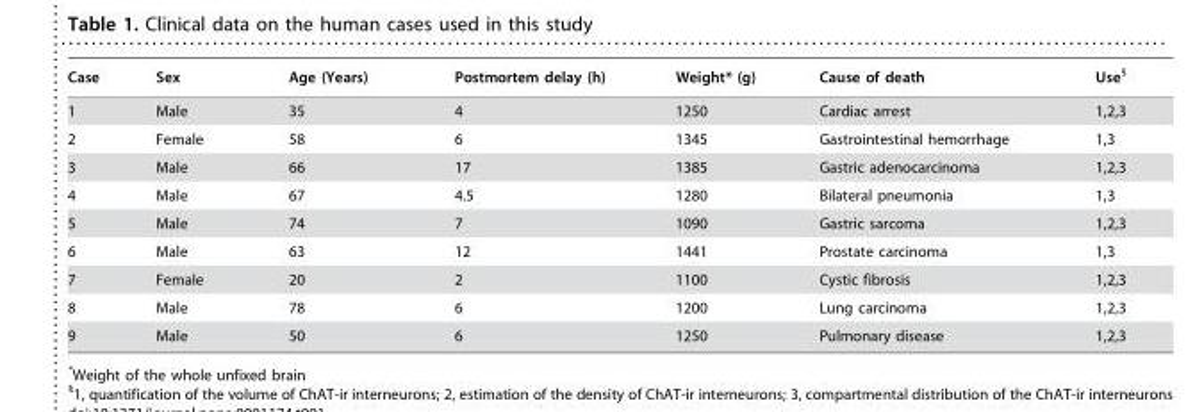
<table><thead><tr><td>Case</td><td>Sex</td><td>Age (Years)</td><td>Postmortem delay (h)</td><td>Weight* (g)</td><td>Cause of death</td><td>Use§</td></tr></thead><tbody><tr><td>1</td><td>Male</td><td>35</td><td>4</td><td>1250</td><td>Cardiac arrest</td><td>1,2,3</td></tr><tr><td>2</td><td>Female</td><td>58</td><td>6</td><td>1345</td><td>Gastrointestinal hemorrhage</td><td>1,3</td></tr><tr><td>3</td><td>Male</td><td>66</td><td>17</td><td>1385</td><td>Gastric adenocarcinoma</td><td>1,2,3</td></tr><tr><td>4</td><td>Male</td><td>67</td><td>4.5</td><td>1280</td><td>Bilateral pneumonia</td><td>1,3</td></tr><tr><td>5</td><td>Male</td><td>74</td><td>7</td><td>1090</td><td>Gastric sarcoma</td><td>1,2,3</td></tr><tr><td>6</td><td>Male</td><td>63</td><td>12</td><td>1441</td><td>Prostate carcinoma</td><td>1,3</td></tr><tr><td>7</td><td>Female</td><td>20</td><td>2</td><td>1100</td><td>Cystic fibrosis</td><td>1,2,3</td></tr><tr><td>8</td><td>Male</td><td>78</td><td>6</td><td>1200</td><td>Lung carcinoma</td><td>1,2,3</td></tr><tr><td>9</td><td>Male</td><td>50</td><td>6</td><td>1250</td><td>Pulmonary disease</td><td>1,2,3</td></tr></tbody></table>